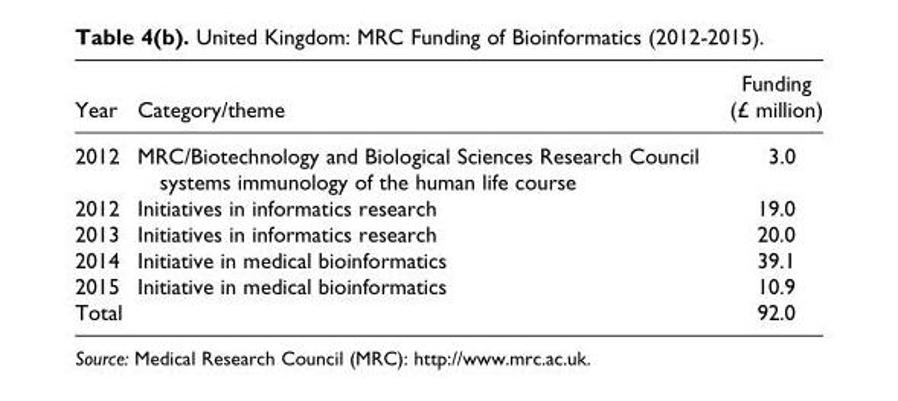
<table><thead><tr><td>Year</td><td>Category/theme</td><td>Funding (£ million)</td></tr></thead><tbody><tr><td>2012</td><td>MRC/Biotechnology and Biological Sciences Research Council systems immunology of the human life course</td><td>3.0</td></tr><tr><td>2012</td><td>Initiatives in informatics research</td><td>19.0</td></tr><tr><td>2013</td><td>Initiatives in informatics research</td><td>20.0</td></tr><tr><td>2014</td><td>Initiative in medical bioinformatics</td><td>39.1</td></tr><tr><td>2015</td><td>Initiative in medical bioinformatics</td><td>10.9</td></tr><tr><td>Total</td><td></td><td>92.0</td></tr></tbody></table>